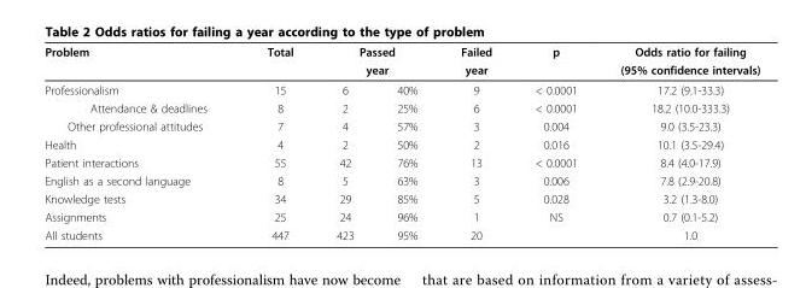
<table><thead><tr><td rowspan="3">Problem Professionalism</td><td rowspan="3">Total 15</td><td rowspan="2" colspan="2">Passed year</td><td rowspan="3">Failed year 9</td><td rowspan="3">p &lt; 0.0001</td><td rowspan="3">Odds ratio for failing (95% confidence intervals) 17.2 (9.1-33.3)</td></tr><tr></tr><tr><td>6</td><td>40%</td></tr></thead><tbody><tr><td>Attendance &amp; deadlines</td><td>8</td><td>2</td><td>25%</td><td>6</td><td>&lt; 0.0001</td><td>18.2 (10.0-333.3)</td></tr><tr><td>Other professional attitudes</td><td>7</td><td>4</td><td>57%</td><td>3</td><td>0.004</td><td>9.0 (3.5-23.3)</td></tr><tr><td>Health</td><td>4</td><td>2</td><td>50%</td><td>2</td><td>0.016</td><td>10.1 (3.5-29.4)</td></tr><tr><td>Patient interactions</td><td>55</td><td>42</td><td>76%</td><td>13</td><td>&lt; 0.0001</td><td>8.4 (4.0-17.9)</td></tr><tr><td>English as a second language</td><td>8</td><td>5</td><td>63%</td><td>3</td><td>0.006</td><td>7.8 (2.9-20.8)</td></tr><tr><td>Knowledge tests</td><td>34</td><td>29</td><td>85%</td><td>5</td><td>0.028</td><td>3.2 (1.3-8.0)</td></tr><tr><td>Assignments</td><td>25</td><td>24</td><td>96%</td><td>1</td><td>NS</td><td>0.7 (0.1-5.2)</td></tr><tr><td>All students</td><td>447</td><td>423</td><td>95%</td><td>20</td><td></td><td>1.0</td></tr></tbody></table>